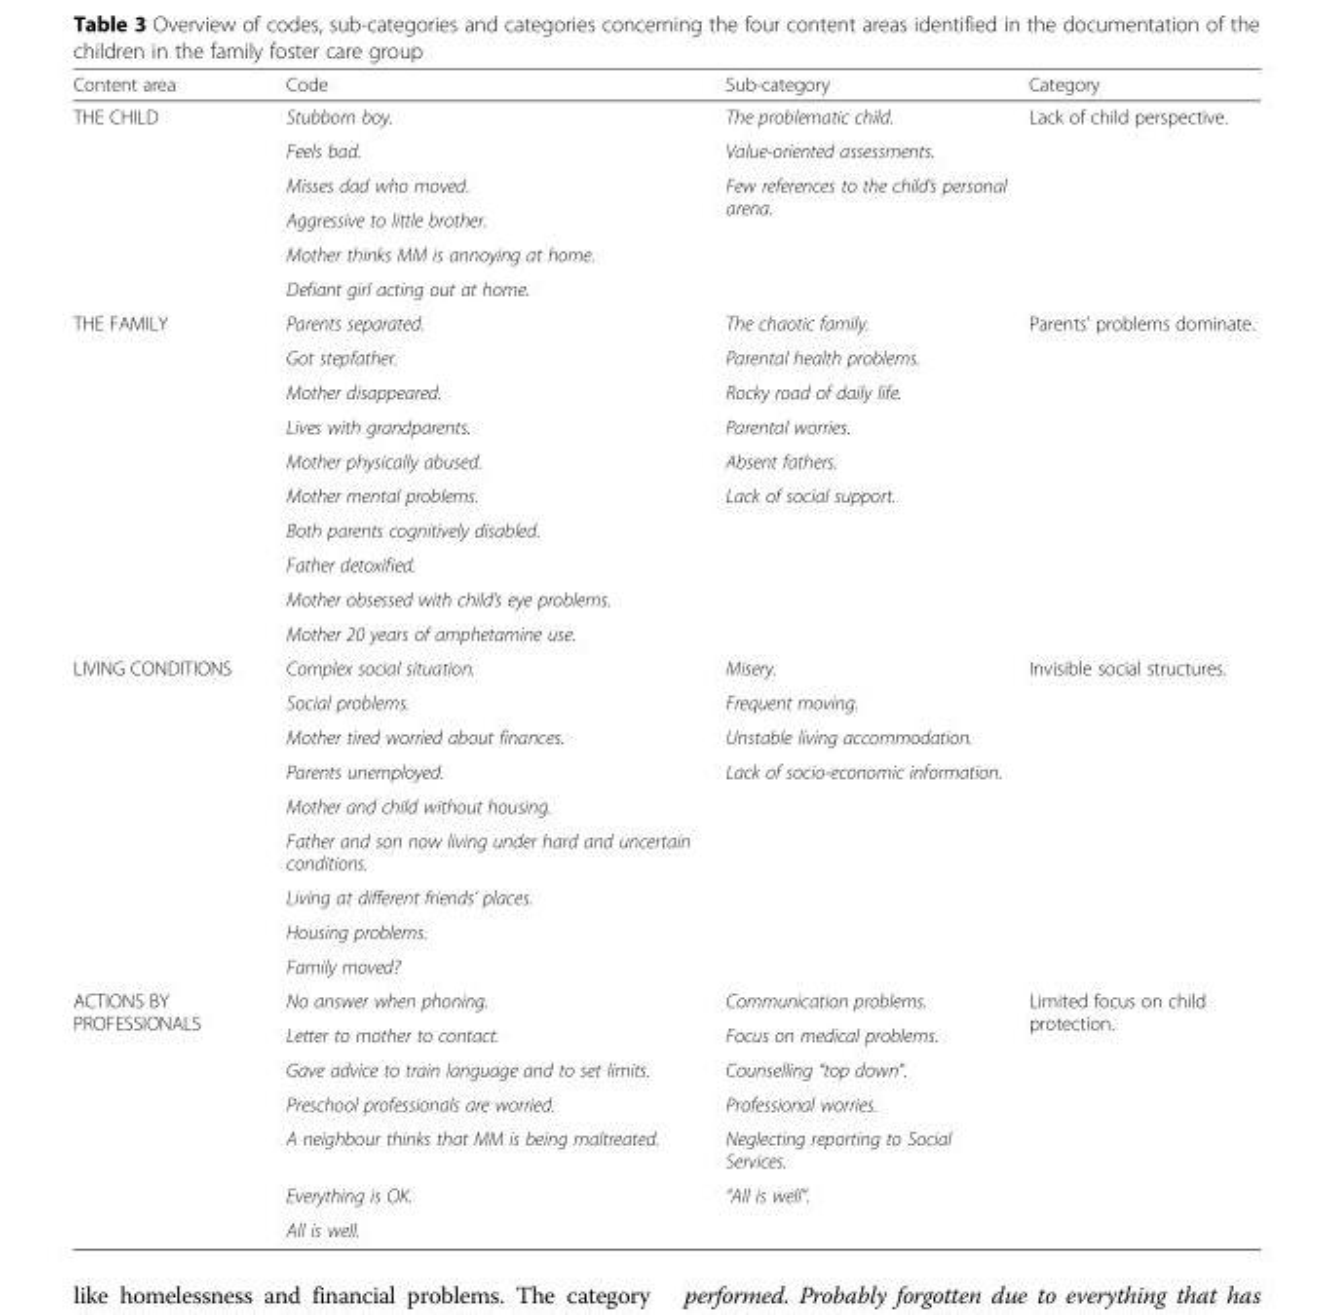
<table><thead><tr><td>Content area</td><td>Code</td><td>Sub-category</td><td>Category</td></tr></thead><tbody><tr><td rowspan="6">THE CHILD</td><td>Stubborn boy.</td><td>The problematic child.</td><td rowspan="6">Lack of child perspective.</td></tr><tr><td>Feels bad.</td><td>Value-oriented assessments.</td></tr><tr><td>Misses dad who moved.</td><td rowspan="4">Few references to the child’s personal arena.</td></tr><tr><td>Aggressive to little brother.</td></tr><tr><td>Mother thinks MM is annoying at home.</td></tr><tr><td>Defiant girl acting out at home.</td></tr><tr><td rowspan="10">THE FAMILY</td><td>Parents separated.</td><td>The chaotic family.</td><td rowspan="10">Parents’ problems dominate.</td></tr><tr><td>Got stepfather.</td><td>Parental health problems.</td></tr><tr><td>Mother disappeared.</td><td>Rocky road of daily life.</td></tr><tr><td>Lives with grandparents.</td><td>Parental worries.</td></tr><tr><td>Mother physically abused.</td><td>Absent fathers.</td></tr><tr><td>Mother mental problems.</td><td rowspan="5">Lack of social support.</td></tr><tr><td>Both parents cognitively disabled.</td></tr><tr><td>Father detoxified.</td></tr><tr><td>Mother obsessed with child’s eye problems.</td></tr><tr><td>Mother 20 years of amphetamine use.</td></tr><tr><td rowspan="9">LIVING CONDITIONS</td><td>Complex social situation.</td><td>Misery.</td><td rowspan="9">Invisible social structures.</td></tr><tr><td>Social problems.</td><td>Frequent moving.</td></tr><tr><td>Mother tired worried about finances.</td><td>Unstable living accommodation.</td></tr><tr><td>Parents unemployed.</td><td rowspan="6">Lack of socio-economic information.</td></tr><tr><td>Mother and child without housing.</td></tr><tr><td>Father and son now living under hard and uncertain conditions.</td></tr><tr><td>Living at different friends’ places.</td></tr><tr><td>Housing problems.</td></tr><tr><td>Family moved?</td></tr><tr><td rowspan="7">ACTIONS BY PROFESSIONALS</td><td>No answer when phoning.</td><td>Communication problems.</td><td rowspan="7">Limited focus on child protection.</td></tr><tr><td>Letter to mother to contact.</td><td>Focus on medical problems.</td></tr><tr><td>Gave advice to train language and to set limits.</td><td>Counselling “top down”.</td></tr><tr><td>Preschool professionals are worried.</td><td>Professional worries.</td></tr><tr><td>A neighbour thinks that MM is being maltreated.</td><td>Neglecting reporting to Social Services.</td></tr><tr><td>Everything is OK.</td><td rowspan="2">“All is well”.</td></tr><tr><td>All is well.</td></tr></tbody></table>